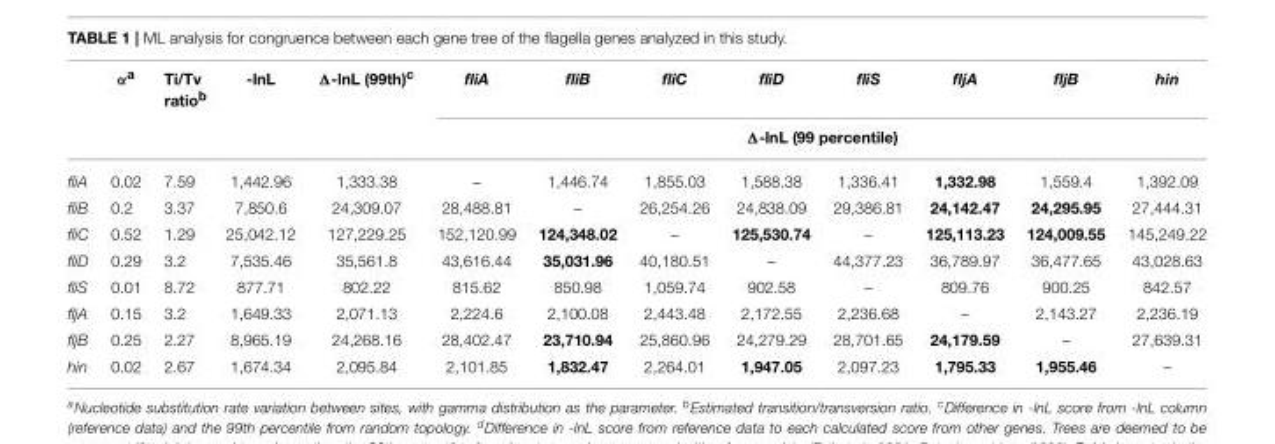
<table><thead><tr><td rowspan="2"></td><td rowspan="2">α<sup>a</sup></td><td rowspan="2">Ti/Tv ratio<sup>b</sup></td><td rowspan="2">-lnL</td><td rowspan="2">Δ-lnL (99th)<sup>c</sup></td><td>fliA</td><td>fliB</td><td>fliC</td><td>fliD</td><td>fliS</td><td>fljA</td><td>fljB</td><td>hin</td></tr><tr><td colspan="8">Δ-lnL (99 percentile)</td></tr></thead><tbody><tr><td>fliA</td><td>0.02</td><td>7.59</td><td>1,442.96</td><td>1,333.38</td><td>–</td><td>1,446.74</td><td>1,855.03</td><td>1,588.38</td><td>1,336.41</td><td>1,332.98</td><td>1,559.4</td><td>1,392.09</td></tr><tr><td>fliB</td><td>0.2</td><td>3.37</td><td>7,850.6</td><td>24,309.07</td><td>28,488.81</td><td>–</td><td>26,254.26</td><td>24,838.09</td><td>29,386.81</td><td>24,142.47</td><td>24,295.95</td><td>27,444.31</td></tr><tr><td>fliC</td><td>0.52</td><td>1.29</td><td>25,042.12</td><td>127,229.25</td><td>152,120.99</td><td>124,348.02</td><td>–</td><td>125,530.74</td><td>–</td><td>125,113.23</td><td>124,009.55</td><td>145,249.22</td></tr><tr><td>fliD</td><td>0.29</td><td>3.2</td><td>7,535.46</td><td>35,561.8</td><td>43,616.44</td><td>35,031.96</td><td>40,180.51</td><td>–</td><td>44,377.23</td><td>36,789.97</td><td>36,477.65</td><td>43,028.63</td></tr><tr><td>fliS</td><td>0.01</td><td>8.72</td><td>877.71</td><td>802.22</td><td>815.62</td><td>850.98</td><td>1,059.74</td><td>902.58</td><td>–</td><td>809.76</td><td>900.25</td><td>842.57</td></tr><tr><td>fljA</td><td>0.15</td><td>3.2</td><td>1,649.33</td><td>2,071.13</td><td>2,224.6</td><td>2,100.08</td><td>2,443.48</td><td>2,172.55</td><td>2,236.68</td><td>–</td><td>2,143.27</td><td>2,236.19</td></tr><tr><td>fljB</td><td>0.25</td><td>2.27</td><td>8,965.19</td><td>24,268.16</td><td>28,402.47</td><td>23,710.94</td><td>25,860.96</td><td>24,279.29</td><td>28,701.65</td><td>24,179.59</td><td>–</td><td>27,639.31</td></tr><tr><td>hin</td><td>0.02</td><td>2.67</td><td>1,674.34</td><td>2,095.84</td><td>2,101.85</td><td>1,832.47</td><td>2,264.01</td><td>1,947.05</td><td>2,097.23</td><td>1,795.33</td><td>1,955.46</td><td>–</td></tr></tbody></table>